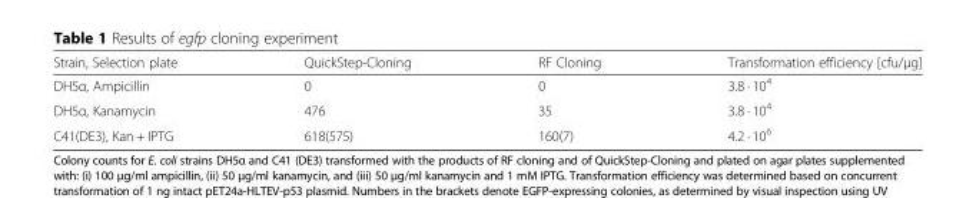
<table><thead><tr><td>Strain, Selection plate</td><td>QuickStep-Cloning</td><td>RF Cloning</td><td>Transformation efficiency [cfu/μg]</td></tr></thead><tbody><tr><td>DH5α, Ampicillin</td><td>0</td><td>0</td><td>3.8 · 10<sup>4</sup></td></tr><tr><td>DH5α, Kanamycin</td><td>476</td><td>35</td><td>3.8 · 10<sup>4</sup></td></tr><tr><td>C41(DE3), Kan + IPTG</td><td>618(575)</td><td>160(7)</td><td>4.2 · 10<sup>6</sup></td></tr></tbody></table>